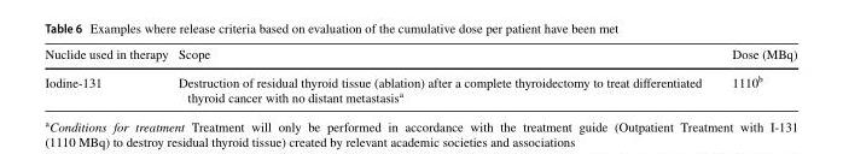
<table><thead><tr><td>Nuclide used in therapy</td><td>Scope</td><td>Dose (MBq)</td></tr></thead><tbody><tr><td>Iodine-131</td><td>Destruction of residual thyroid tissue (ablation) after a complete thyroidectomy to treat differentiated thyroid cancer with no distant metastasis<sup>a</sup></td><td>1110<sup>b</sup></td></tr></tbody></table>